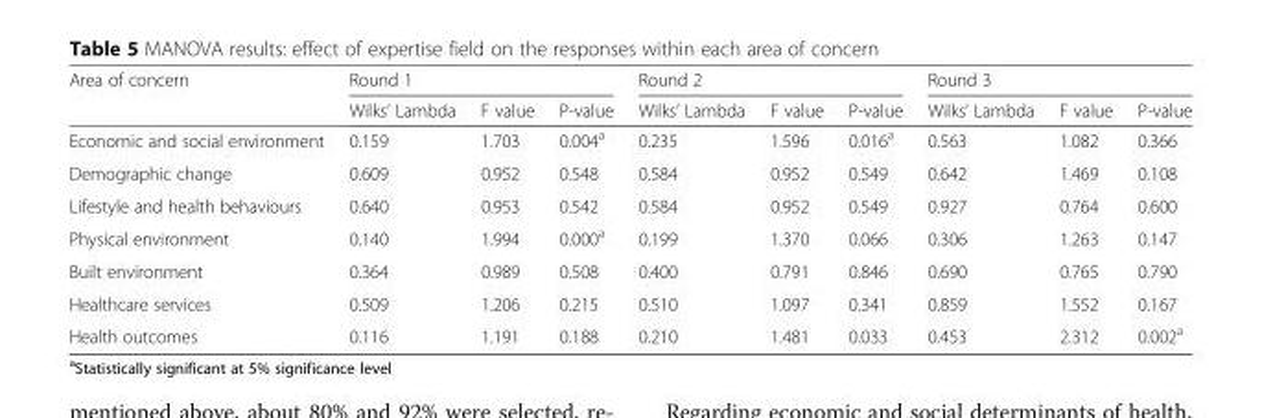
<table><thead><tr><td rowspan="2">Area of concern</td><td colspan="3">Round 1</td><td colspan="3">Round 2</td><td colspan="3">Round 3</td></tr><tr><td>Wilks’ Lambda</td><td>F value</td><td>P-value</td><td>Wilks’ Lambda</td><td>F value</td><td>P-value</td><td>Wilks’ Lambda</td><td>F value</td><td>P-value</td></tr></thead><tbody><tr><td>Economic and social environment</td><td>0.159</td><td>1.703</td><td>0.004<sup>a</sup></td><td>0.235</td><td>1.596</td><td>0.016<sup>a</sup></td><td>0.563</td><td>1.082</td><td>0.366</td></tr><tr><td>Demographic change</td><td>0.609</td><td>0.952</td><td>0.548</td><td>0.584</td><td>0.952</td><td>0.549</td><td>0.642</td><td>1.469</td><td>0.108</td></tr><tr><td>Lifestyle and health behaviours</td><td>0.640</td><td>0.953</td><td>0.542</td><td>0.584</td><td>0.952</td><td>0.549</td><td>0.927</td><td>0.764</td><td>0.600</td></tr><tr><td>Physical environment</td><td>0.140</td><td>1.994</td><td>0.000<sup>a</sup></td><td>0.199</td><td>1.370</td><td>0.066</td><td>0.306</td><td>1.263</td><td>0.147</td></tr><tr><td>Built environment</td><td>0.364</td><td>0.989</td><td>0.508</td><td>0.400</td><td>0.791</td><td>0.846</td><td>0.690</td><td>0.765</td><td>0.790</td></tr><tr><td>Healthcare services</td><td>0.509</td><td>1.206</td><td>0.215</td><td>0.510</td><td>1.097</td><td>0.341</td><td>0.859</td><td>1.552</td><td>0.167</td></tr><tr><td>Health outcomes</td><td>0.116</td><td>1.191</td><td>0.188</td><td>0.210</td><td>1.481</td><td>0.033</td><td>0.453</td><td>2.312</td><td>0.002<sup>a</sup></td></tr></tbody></table>